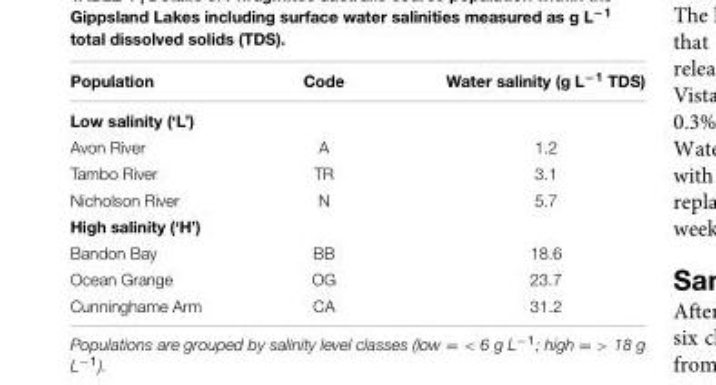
<table><thead><tr><td>Population</td><td>Code</td><td>Water salinity (g L<sup>−1</sup> TDS)</td></tr></thead><tbody><tr><td colspan="3">Low salinity (‘L’)</td></tr><tr><td>Avon River</td><td>A</td><td>1.2</td></tr><tr><td>Tambo River</td><td>TR</td><td>3.1</td></tr><tr><td>Nicholson River</td><td>N</td><td>5.7</td></tr><tr><td colspan="3">High salinity (‘H’)</td></tr><tr><td>Bandon Bay</td><td>BB</td><td>18.6</td></tr><tr><td>Ocean Grange</td><td>OG</td><td>23.7</td></tr><tr><td>Cunninghame Arm</td><td>CA</td><td>31.2</td></tr></tbody></table>